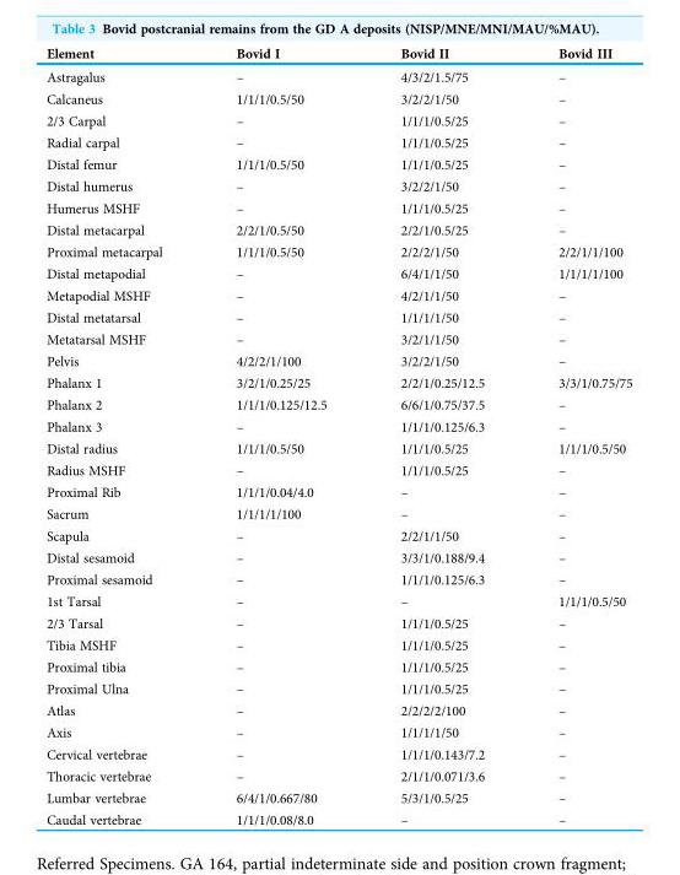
<table><thead><tr><td>Element</td><td>Bovid I</td><td>Bovid II</td><td>Bovid III</td></tr></thead><tbody><tr><td>Astragalus</td><td>–</td><td>4/3/2/1.5/75</td><td>–</td></tr><tr><td>Calcaneus</td><td>1/1/1/0.5/50</td><td>3/2/2/1/50</td><td>–</td></tr><tr><td>2/3 Carpal</td><td>–</td><td>1/1/1/0.5/25</td><td>–</td></tr><tr><td>Radial carpal</td><td>–</td><td>1/1/1/0.5/25</td><td>–</td></tr><tr><td>Distal femur</td><td>1/1/1/0.5/50</td><td>1/1/1/0.5/25</td><td>–</td></tr><tr><td>Distal humerus</td><td>–</td><td>3/2/2/1/50</td><td>–</td></tr><tr><td>Humerus MSHF</td><td>–</td><td>1/1/1/0.5/25</td><td>–</td></tr><tr><td>Distal metacarpal</td><td>2/2/1/0.5/50</td><td>2/2/1/0.5/25</td><td>–</td></tr><tr><td>Proximal metacarpal</td><td>1/1/1/0.5/50</td><td>2/2/2/1/50</td><td>2/2/1/1/100</td></tr><tr><td>Distal metapodial</td><td>–</td><td>6/4/1/1/50</td><td>1/1/1/1/100</td></tr><tr><td>Metapodial MSHF</td><td>–</td><td>4/2/1/1/50</td><td>–</td></tr><tr><td>Distal metatarsal</td><td>–</td><td>1/1/1/1/50</td><td>–</td></tr><tr><td>Metatarsal MSHF</td><td>–</td><td>3/2/1/1/50</td><td>–</td></tr><tr><td>Pelvis</td><td>4/2/2/1/100</td><td>3/2/2/1/50</td><td>–</td></tr><tr><td>Phalanx 1</td><td>3/2/1/0.25/25</td><td>2/2/1/0.25/12.5</td><td>3/3/1/0.75/75</td></tr><tr><td>Phalanx 2</td><td>1/1/1/0.125/12.5</td><td>6/6/1/0.75/37.5</td><td>–</td></tr><tr><td>Phalanx 3</td><td>–</td><td>1/1/1/0.125/6.3</td><td>–</td></tr><tr><td>Distal radius</td><td>1/1/1/0.5/50</td><td>1/1/1/0.5/25</td><td>1/1/1/0.5/50</td></tr><tr><td>Radius MSHF</td><td>–</td><td>1/1/1/0.5/25</td><td>–</td></tr><tr><td>Proximal Rib</td><td>1/1/1/0.04/4.0</td><td>–</td><td>–</td></tr><tr><td>Sacrum</td><td>1/1/1/1/100</td><td>–</td><td>–</td></tr><tr><td>Scapula</td><td>–</td><td>2/2/1/1/50</td><td>–</td></tr><tr><td>Distal sesamoid</td><td>–</td><td>3/3/1/0.188/9.4</td><td>–</td></tr><tr><td>Proximal sesamoid</td><td>–</td><td>1/1/1/0.125/6.3</td><td>–</td></tr><tr><td>1st Tarsal</td><td>–</td><td>–</td><td>1/1/1/0.5/50</td></tr><tr><td>2/3 Tarsal</td><td>–</td><td>1/1/1/0.5/25</td><td>–</td></tr><tr><td>Tibia MSHF</td><td>–</td><td>1/1/1/0.5/25</td><td>–</td></tr><tr><td>Proximal tibia</td><td>–</td><td>1/1/1/0.5/25</td><td>–</td></tr><tr><td>Proximal Ulna</td><td>–</td><td>1/1/1/0.5/25</td><td>–</td></tr><tr><td>Atlas</td><td>–</td><td>2/2/2/2/100</td><td>–</td></tr><tr><td>Axis</td><td>–</td><td>1/1/1/1/50</td><td>–</td></tr><tr><td>Cervical vertebrae</td><td>–</td><td>1/1/1/0.143/7.2</td><td>–</td></tr><tr><td>Thoracic vertebrae</td><td>–</td><td>2/1/1/0.071/3.6</td><td>–</td></tr><tr><td>Lumbar vertebrae</td><td>6/4/1/0.667/80</td><td>5/3/1/0.5/25</td><td>–</td></tr><tr><td>Caudal vertebrae</td><td>1/1/1/0.08/8.0</td><td>–</td><td>–</td></tr></tbody></table>